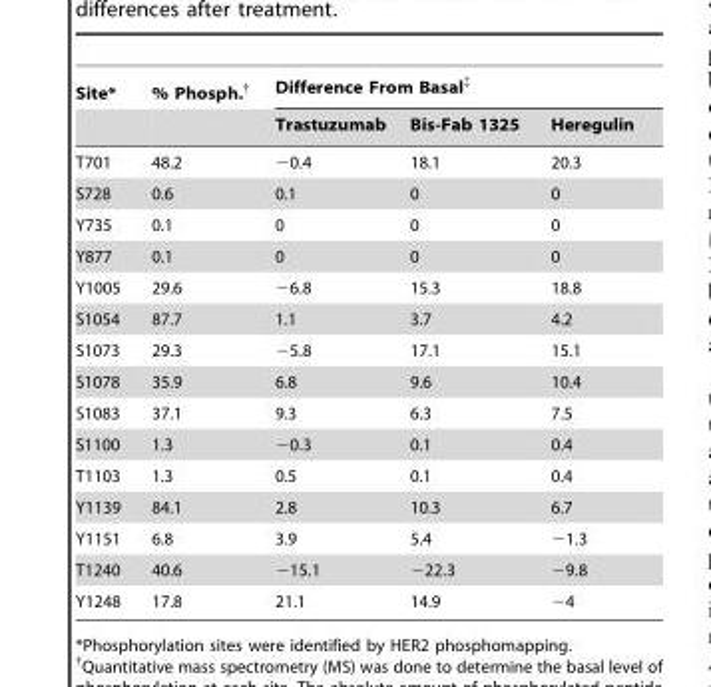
<table><thead><tr><td rowspan="2">Site*</td><td rowspan="2">% Phosph.†</td><td colspan="3">Difference From Basal‡</td></tr><tr><td>Trastuzumab</td><td>Bis-Fab 1325</td><td>Heregulin</td></tr></thead><tbody><tr><td>T701</td><td>48.2</td><td>−0.4</td><td>18.1</td><td>20.3</td></tr><tr><td>S728</td><td>0.6</td><td>0.1</td><td>0</td><td>0</td></tr><tr><td>Y735</td><td>0.1</td><td>0</td><td>0</td><td>0</td></tr><tr><td>Y877</td><td>0.1</td><td>0</td><td>0</td><td>0</td></tr><tr><td>Y1005</td><td>29.6</td><td>−6.8</td><td>15.3</td><td>18.8</td></tr><tr><td>S1054</td><td>87.7</td><td>1.1</td><td>3.7</td><td>4.2</td></tr><tr><td>S1073</td><td>29.3</td><td>−5.8</td><td>17.1</td><td>15.1</td></tr><tr><td>S1078</td><td>35.9</td><td>6.8</td><td>9.6</td><td>10.4</td></tr><tr><td>S1083</td><td>37.1</td><td>9.3</td><td>6.3</td><td>7.5</td></tr><tr><td>S1100</td><td>1.3</td><td>−0.3</td><td>0.1</td><td>0.4</td></tr><tr><td>T1103</td><td>1.3</td><td>0.5</td><td>0.1</td><td>0.4</td></tr><tr><td>Y1139</td><td>84.1</td><td>2.8</td><td>10.3</td><td>6.7</td></tr><tr><td>Y1151</td><td>6.8</td><td>3.9</td><td>5.4</td><td>−1.3</td></tr><tr><td>T1240</td><td>40.6</td><td>−15.1</td><td>−22.3</td><td>−9.8</td></tr><tr><td>Y1248</td><td>17.8</td><td>21.1</td><td>14.9</td><td>−4</td></tr></tbody></table>